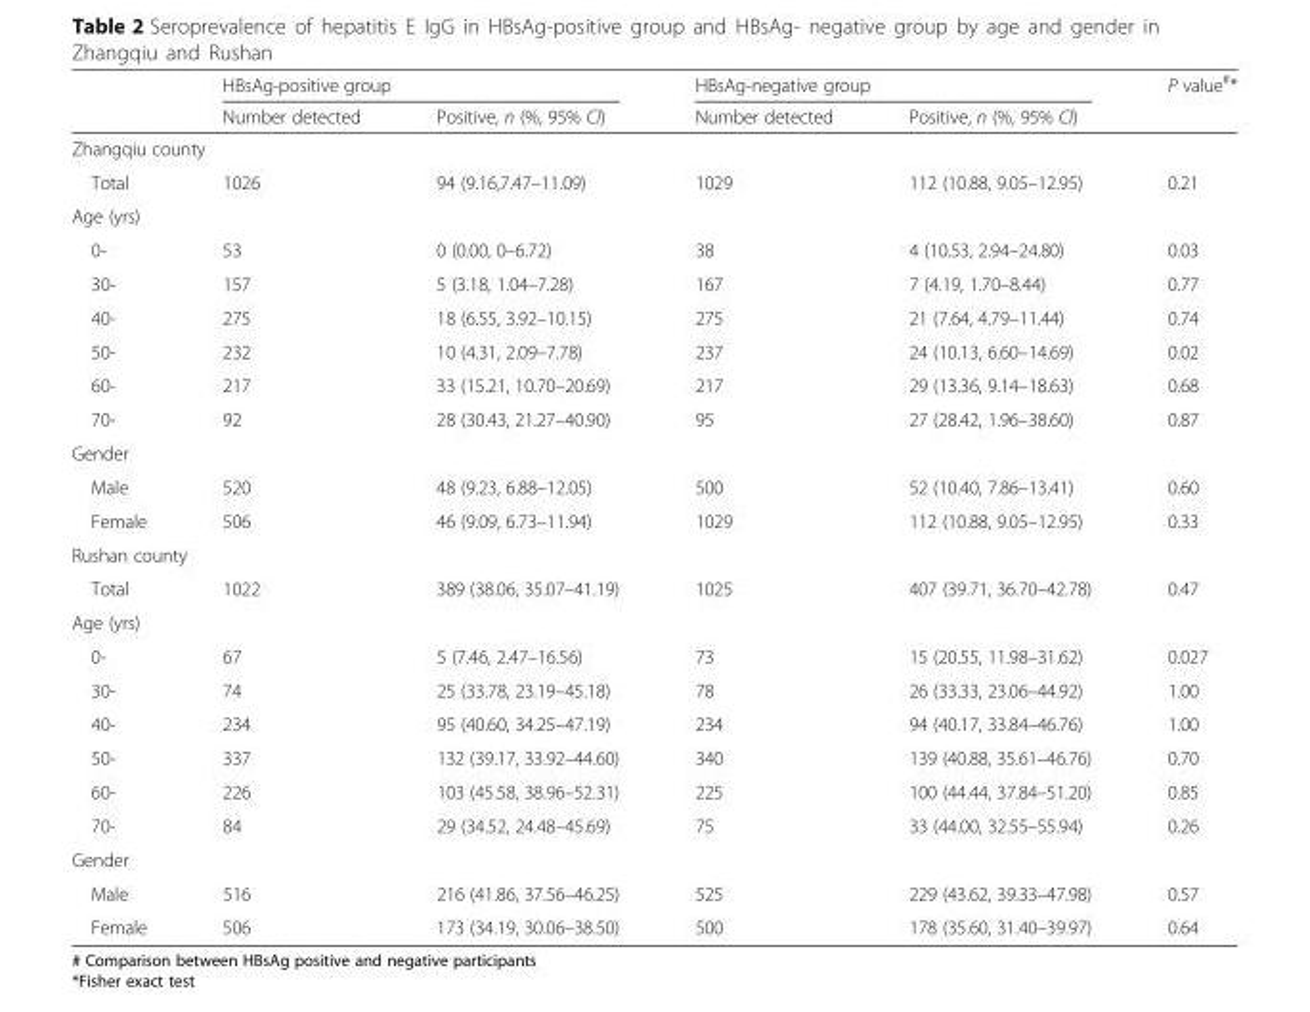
<table><thead><tr><td rowspan="2"></td><td colspan="2">HBsAg-positive group</td><td colspan="2">HBsAg-negative group</td><td rowspan="2">P value<sup>#</sup>*</td></tr><tr><td>Number detected</td><td>Positive, n (%, 95% CI)</td><td>Number detected</td><td>Positive, n (%, 95% CI)</td></tr></thead><tbody><tr><td colspan="6">Zhangqiu county</td></tr><tr><td>Total</td><td>1026</td><td>94 (9.16,7.47–11.09)</td><td>1029</td><td>112 (10.88, 9.05–12.95)</td><td>0.21</td></tr><tr><td colspan="6">Age (yrs)</td></tr><tr><td>0-</td><td>53</td><td>0 (0.00, 0–6.72)</td><td>38</td><td>4 (10.53, 2.94–24.80)</td><td>0.03</td></tr><tr><td>30-</td><td>157</td><td>5 (3.18, 1.04–7.28)</td><td>167</td><td>7 (4.19, 1.70–8.44)</td><td>0.77</td></tr><tr><td>40-</td><td>275</td><td>18 (6.55, 3.92–10.15)</td><td>275</td><td>21 (7.64, 4.79–11.44)</td><td>0.74</td></tr><tr><td>50-</td><td>232</td><td>10 (4.31, 2.09–7.78)</td><td>237</td><td>24 (10.13, 6.60–14.69)</td><td>0.02</td></tr><tr><td>60-</td><td>217</td><td>33 (15.21, 10.70–20.69)</td><td>217</td><td>29 (13.36, 9.14–18.63)</td><td>0.68</td></tr><tr><td>70-</td><td>92</td><td>28 (30.43, 21.27–40.90)</td><td>95</td><td>27 (28.42, 1.96–38.60)</td><td>0.87</td></tr><tr><td colspan="6">Gender</td></tr><tr><td>Male</td><td>520</td><td>48 (9.23, 6.88–12.05)</td><td>500</td><td>52 (10.40, 7.86–13.41)</td><td>0.60</td></tr><tr><td>Female</td><td>506</td><td>46 (9.09, 6.73–11.94)</td><td>1029</td><td>112 (10.88, 9.05–12.95)</td><td>0.33</td></tr><tr><td colspan="6">Rushan county</td></tr><tr><td>Total</td><td>1022</td><td>389 (38.06, 35.07–41.19)</td><td>1025</td><td>407 (39.71, 36.70–42.78)</td><td>0.47</td></tr><tr><td colspan="6">Age (yrs)</td></tr><tr><td>0-</td><td>67</td><td>5 (7.46, 2.47–16.56)</td><td>73</td><td>15 (20.55, 11.98–31.62)</td><td>0.027</td></tr><tr><td>30-</td><td>74</td><td>25 (33.78, 23.19–45.18)</td><td>78</td><td>26 (33.33, 23.06–44.92)</td><td>1.00</td></tr><tr><td>40-</td><td>234</td><td>95 (40.60, 34.25–47.19)</td><td>234</td><td>94 (40.17, 33.84–46.76)</td><td>1.00</td></tr><tr><td>50-</td><td>337</td><td>132 (39.17, 33.92–44.60)</td><td>340</td><td>139 (40.88, 35.61–46.76)</td><td>0.70</td></tr><tr><td>60-</td><td>226</td><td>103 (45.58, 38.96–52.31)</td><td>225</td><td>100 (44.44, 37.84–51.20)</td><td>0.85</td></tr><tr><td>70-</td><td>84</td><td>29 (34.52, 24.48–45.69)</td><td>75</td><td>33 (44.00, 32.55–55.94)</td><td>0.26</td></tr><tr><td colspan="6">Gender</td></tr><tr><td>Male</td><td>516</td><td>216 (41.86, 37.56–46.25)</td><td>525</td><td>229 (43.62, 39.33–47.98)</td><td>0.57</td></tr><tr><td>Female</td><td>506</td><td>173 (34.19, 30.06–38.50)</td><td>500</td><td>178 (35.60, 31.40–39.97)</td><td>0.64</td></tr></tbody></table>